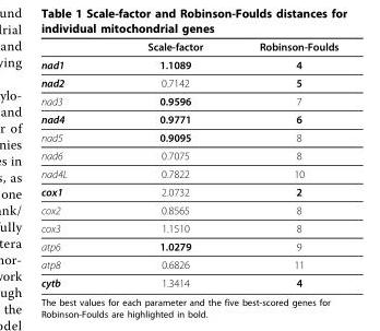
<table><thead><tr><td></td><td>Scale-factor</td><td>Robinson-Foulds</td></tr></thead><tbody><tr><td>nad1</td><td>1.1089</td><td>4</td></tr><tr><td>nad2</td><td>0.7142</td><td>5</td></tr><tr><td>nad3</td><td>0.9596</td><td>7</td></tr><tr><td>nad4</td><td>0.9771</td><td>6</td></tr><tr><td>nad5</td><td>0.9095</td><td>8</td></tr><tr><td>nad6</td><td>0.7075</td><td>8</td></tr><tr><td>nad4L</td><td>0.7822</td><td>10</td></tr><tr><td>cox1</td><td>2.0732</td><td>2</td></tr><tr><td>cox2</td><td>0.8565</td><td>8</td></tr><tr><td>cox3</td><td>1.1510</td><td>8</td></tr><tr><td>atp6</td><td>1.0279</td><td>9</td></tr><tr><td>atp8</td><td>0.6826</td><td>11</td></tr><tr><td>cytb</td><td>1.3414</td><td>4</td></tr></tbody></table>